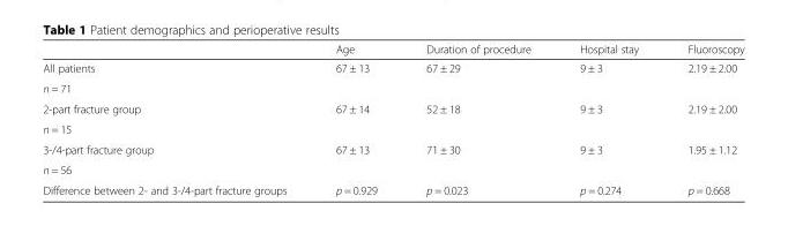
<table><thead><tr><td></td><td>Age</td><td>Duration of procedure</td><td>Hospital stay</td><td>Fluoroscopy</td></tr></thead><tbody><tr><td>All patients</td><td rowspan="2">67 ± 13</td><td rowspan="2">67 ± 29</td><td rowspan="2">9 ± 3</td><td rowspan="2">2.19 ± 2.00</td></tr><tr><td>n = 71</td></tr><tr><td>2-part fracture group</td><td rowspan="2">67 ± 14</td><td rowspan="2">52 ± 18</td><td rowspan="2">9 ± 3</td><td rowspan="2">2.19 ± 2.00</td></tr><tr><td>n = 15</td></tr><tr><td>3-/4-part fracture group</td><td rowspan="2">67 ± 13</td><td rowspan="2">71 ± 30</td><td rowspan="2">9 ± 3</td><td rowspan="2">1.95 ± 1.12</td></tr><tr><td>n = 56</td></tr><tr><td>Difference between 2- and 3-/4-part fracture groups</td><td>p = 0.929</td><td>p = 0.023</td><td>p = 0.274</td><td>p = 0.668</td></tr></tbody></table>